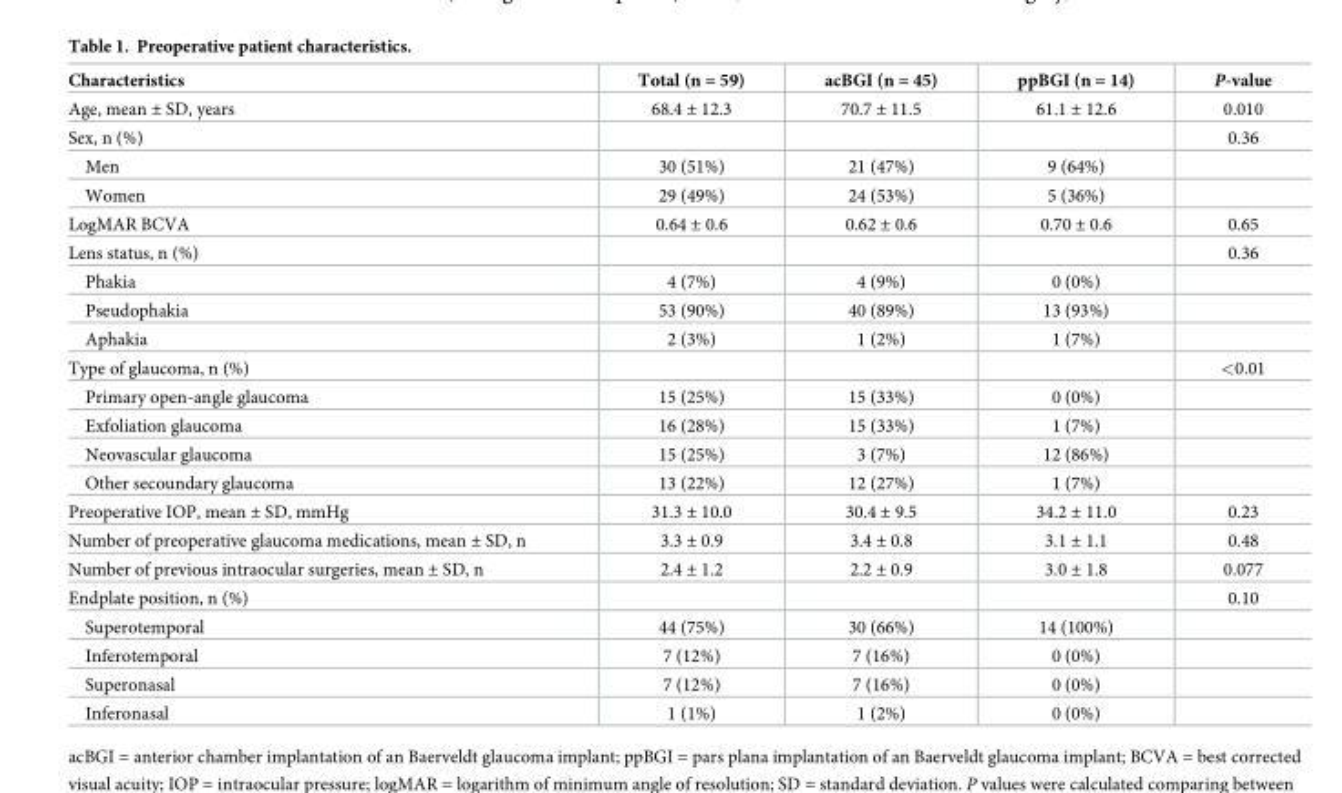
<table><thead><tr><td>Characteristics</td><td>Total (n = 59)</td><td>acBGI (n = 45)</td><td>ppBGI (n = 14)</td><td>P-value</td></tr></thead><tbody><tr><td>Age, mean ± SD, years</td><td>68.4 ± 12.3</td><td>70.7 ± 11.5</td><td>61.1 ± 12.6</td><td>0.010</td></tr><tr><td>Sex, n (%)</td><td></td><td></td><td></td><td>0.36</td></tr><tr><td>Men</td><td>30 (51%)</td><td>21 (47%)</td><td>9 (64%)</td><td></td></tr><tr><td>Women</td><td>29 (49%)</td><td>24 (53%)</td><td>5 (36%)</td><td></td></tr><tr><td>LogMAR BCVA</td><td>0.64 ± 0.6</td><td>0.62 ± 0.6</td><td>0.70 ± 0.6</td><td>0.65</td></tr><tr><td>Lens status, n (%)</td><td></td><td></td><td></td><td>0.36</td></tr><tr><td>Phakia</td><td>4 (7%)</td><td>4 (9%)</td><td>0 (0%)</td><td></td></tr><tr><td>Pseudophakia</td><td>53 (90%)</td><td>40 (89%)</td><td>13 (93%)</td><td></td></tr><tr><td>Aphakia</td><td>2 (3%)</td><td>1 (2%)</td><td>1 (7%)</td><td></td></tr><tr><td>Type of glaucoma, n (%)</td><td></td><td></td><td></td><td>&lt;0.01</td></tr><tr><td>Primary open-angle glaucoma</td><td>15 (25%)</td><td>15 (33%)</td><td>0 (0%)</td><td></td></tr><tr><td>Exfoliation glaucoma</td><td>16 (28%)</td><td>15 (33%)</td><td>1 (7%)</td><td></td></tr><tr><td>Neovascular glaucoma</td><td>15 (25%)</td><td>3 (7%)</td><td>12 (86%)</td><td></td></tr><tr><td>Other secoundary glaucoma</td><td>13 (22%)</td><td>12 (27%)</td><td>1 (7%)</td><td></td></tr><tr><td>Preoperative IOP, mean ± SD, mmHg</td><td>31.3 ± 10.0</td><td>30.4 ± 9.5</td><td>34.2 ± 11.0</td><td>0.23</td></tr><tr><td>Number of preoperative glaucoma medications, mean ± SD, n</td><td>3.3 ± 0.9</td><td>3.4 ± 0.8</td><td>3.1 ± 1.1</td><td>0.48</td></tr><tr><td>Number of previous intraocular surgeries, mean ± SD, n</td><td>2.4 ± 1.2</td><td>2.2 ± 0.9</td><td>3.0 ± 1.8</td><td>0.077</td></tr><tr><td>Endplate position, n (%)</td><td></td><td></td><td></td><td>0.10</td></tr><tr><td>Superotemporal</td><td>44 (75%)</td><td>30 (66%)</td><td>14 (100%)</td><td></td></tr><tr><td>Inferotemporal</td><td>7 (12%)</td><td>7 (16%)</td><td>0 (0%)</td><td></td></tr><tr><td>Superonasal</td><td>7 (12%)</td><td>7 (16%)</td><td>0 (0%)</td><td></td></tr><tr><td>Inferonasal</td><td>1 (1%)</td><td>1 (2%)</td><td>0 (0%)</td><td></td></tr></tbody></table>